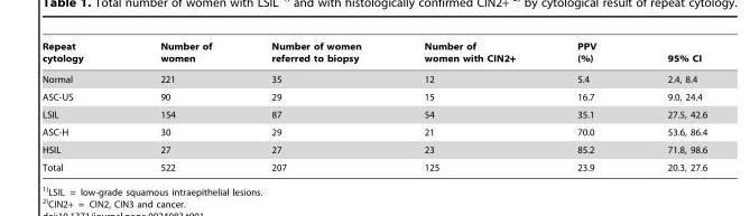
<table><thead><tr><td>Repeat cytology</td><td>Number of women</td><td>Number of women referred to biopsy</td><td>Number of women with CIN2+</td><td>PPV (%)</td><td>95% CI</td></tr></thead><tbody><tr><td>Normal</td><td>221</td><td>35</td><td>12</td><td>5.4</td><td>2.4, 8.4</td></tr><tr><td>ASC-US</td><td>90</td><td>29</td><td>15</td><td>16.7</td><td>9.0, 24.4</td></tr><tr><td>LSIL</td><td>154</td><td>87</td><td>54</td><td>35.1</td><td>27.5, 42.6</td></tr><tr><td>ASC-H</td><td>30</td><td>29</td><td>21</td><td>70.0</td><td>53.6, 86.4</td></tr><tr><td>HSIL</td><td>27</td><td>27</td><td>23</td><td>85.2</td><td>71.8, 98.6</td></tr><tr><td>Total</td><td>522</td><td>207</td><td>125</td><td>23.9</td><td>20.3, 27.6</td></tr></tbody></table>